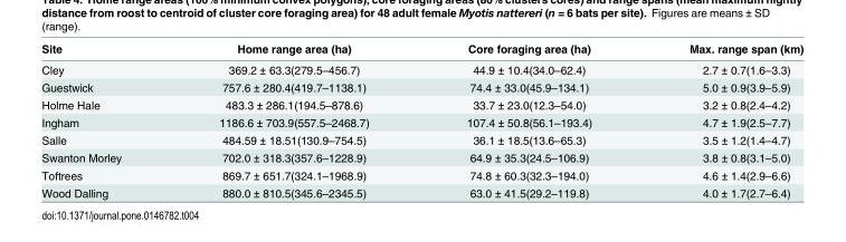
<table><thead><tr><td>Site</td><td>Home range area (ha)</td><td>Core foraging area (ha)</td><td>Max. range span (km)</td></tr></thead><tbody><tr><td>Cley</td><td>369.2 ± 63.3(279.5–456.7)</td><td>44.9 ± 10.4(34.0–62.4)</td><td>2.7 ± 0.7(1.6–3.3)</td></tr><tr><td>Guestwick</td><td>757.6 ± 280.4(419.7–1138.1)</td><td>74.4 ± 33.0(45.9–134.1)</td><td>5.0 ± 0.9(3.9–5.9)</td></tr><tr><td>Holme Hale</td><td>483.3 ± 286.1(194.5–878.6)</td><td>33.7 ± 23.0(12.3–54.0)</td><td>3.2 ± 0.8(2.4–4.2)</td></tr><tr><td>Ingham</td><td>1186.6 ± 703.9(557.5–2468.7)</td><td>107.4 ± 50.8(56.1–193.4)</td><td>4.7 ± 1.9(2.5–7.7)</td></tr><tr><td>Salle</td><td>484.59 ± 18.51(130.9–754.5)</td><td>36.1 ± 18.5(13.6–65.3)</td><td>3.5 ± 1.2(1.4–4.7)</td></tr><tr><td>Swanton Morley</td><td>702.0 ± 318.3(357.6–1228.9)</td><td>64.9 ± 35.3(24.5–106.9)</td><td>3.8 ± 0.8(3.1–5.0)</td></tr><tr><td>Toftrees</td><td>869.7 ± 651.7(324.1–1968.9)</td><td>74.8 ± 60.3(32.3–194.0)</td><td>4.6 ± 1.4(2.9–6.6)</td></tr><tr><td>Wood Dalling</td><td>880.0 ± 810.5(345.6–2345.5)</td><td>63.0 ± 41.5(29.2–119.8)</td><td>4.0 ± 1.7(2.7–6.4)</td></tr></tbody></table>